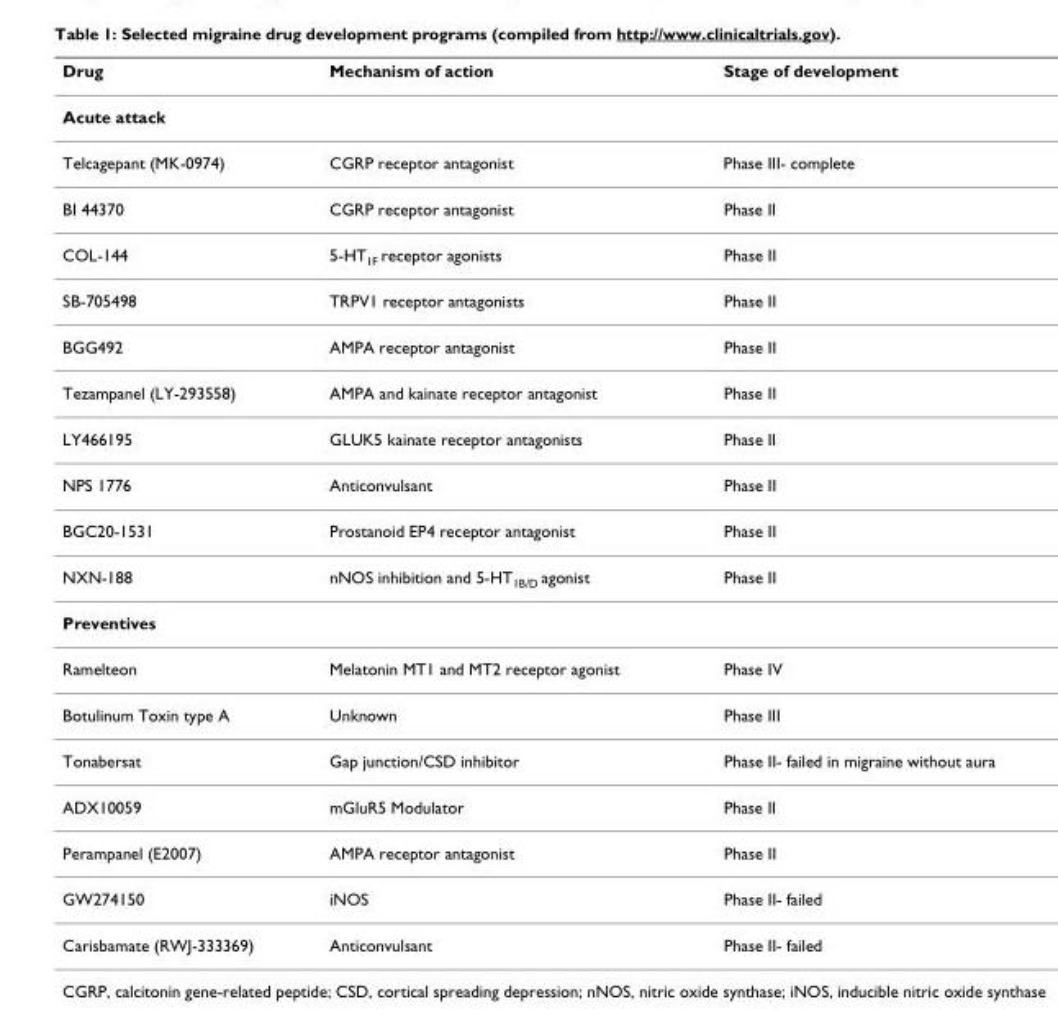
<table><thead><tr><td>Drug</td><td>Mechanism of action</td><td>Stage of development</td></tr></thead><tbody><tr><td colspan="3">Acute attack</td></tr><tr><td>Telcagepant (MK-0974)</td><td>CGRP receptor antagonist</td><td>Phase III- complete</td></tr><tr><td>BI 44370</td><td>CGRP receptor antagonist</td><td>Phase II</td></tr><tr><td>COL-144</td><td>5-HT<sub>1F</sub> receptor agonists</td><td>Phase II</td></tr><tr><td>SB-705498</td><td>TRPV1 receptor antagonists</td><td>Phase II</td></tr><tr><td>BGG492</td><td>AMPA receptor antagonist</td><td>Phase II</td></tr><tr><td>Tezampanel (LY-293558)</td><td>AMPA and kainate receptor antagonist</td><td>Phase II</td></tr><tr><td>LY466195</td><td>GLUK5 kainate receptor antagonists</td><td>Phase II</td></tr><tr><td>NPS 1776</td><td>Anticonvulsant</td><td>Phase II</td></tr><tr><td>BGC20-1531</td><td>Prostanoid EP4 receptor antagonist</td><td>Phase II</td></tr><tr><td>NXN-188</td><td>nNOS inhibition and 5-HT<sub>1B/D</sub> agonist</td><td>Phase II</td></tr><tr><td colspan="3">Preventives</td></tr><tr><td>Ramelteon</td><td>Melatonin MT1 and MT2 receptor agonist</td><td>Phase IV</td></tr><tr><td>Botulinum Toxin type A</td><td>Unknown</td><td>Phase III</td></tr><tr><td>Tonabersat</td><td>Gap junction/CSD inhibitor</td><td>Phase II- failed in migraine without aura</td></tr><tr><td>ADX10059</td><td>mGluR5 Modulator</td><td>Phase II</td></tr><tr><td>Perampanel (E2007)</td><td>AMPA receptor antagonist</td><td>Phase II</td></tr><tr><td>GW274150</td><td>iNOS</td><td>Phase II- failed</td></tr><tr><td>Carisbamate (RWJ-333369)</td><td>Anticonvulsant</td><td>Phase II- failed</td></tr></tbody></table>